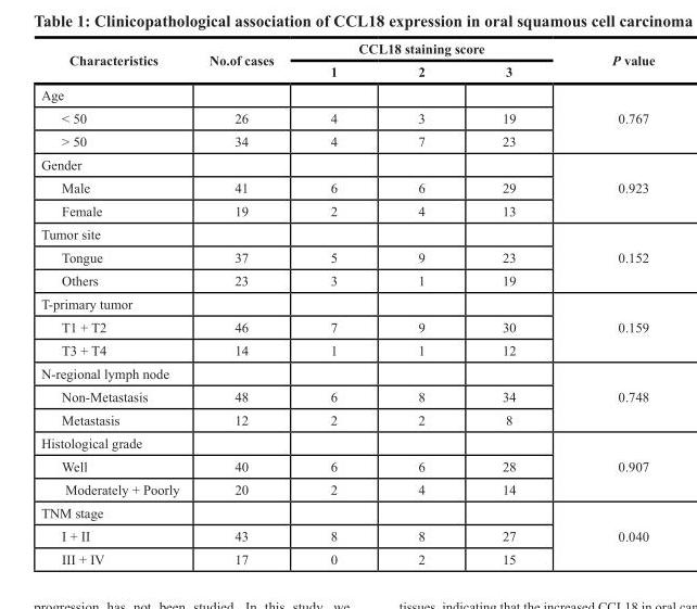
<table><thead><tr><td rowspan="2">Characteristics</td><td rowspan="2">No.of cases</td><td colspan="3">CCL18 staining score</td><td rowspan="2">P value</td></tr><tr><td>1</td><td>2</td><td>3</td></tr></thead><tbody><tr><td colspan="5">Age</td><td rowspan="3">0.767</td></tr><tr><td>&lt; 50</td><td>26</td><td>4</td><td>3</td><td>19</td></tr><tr><td>&gt; 50</td><td>34</td><td>4</td><td>7</td><td>23</td></tr><tr><td colspan="5">Gender</td><td rowspan="3">0.923</td></tr><tr><td>Male</td><td>41</td><td>6</td><td>6</td><td>29</td></tr><tr><td>Female</td><td>19</td><td>2</td><td>4</td><td>13</td></tr><tr><td colspan="5">Tumor site</td><td rowspan="3">0.152</td></tr><tr><td>Tongue</td><td>37</td><td>5</td><td>9</td><td>23</td></tr><tr><td>Others</td><td>23</td><td>3</td><td>1</td><td>19</td></tr><tr><td colspan="5">T-primary tumor</td><td rowspan="3">0.159</td></tr><tr><td>T1 + T2</td><td>46</td><td>7</td><td>9</td><td>30</td></tr><tr><td>T3 + T4</td><td>14</td><td>1</td><td>1</td><td>12</td></tr><tr><td colspan="5">N-regional lymph node</td><td rowspan="3">0.748</td></tr><tr><td>Non-Metastasis</td><td>48</td><td>6</td><td>8</td><td>34</td></tr><tr><td>Metastasis</td><td>12</td><td>2</td><td>2</td><td>8</td></tr><tr><td colspan="5">Histological grade</td><td rowspan="3">0.907</td></tr><tr><td>Well</td><td>40</td><td>6</td><td>6</td><td>28</td></tr><tr><td>Moderately + Poorly</td><td>20</td><td>2</td><td>4</td><td>14</td></tr><tr><td colspan="5">TNM stage</td><td rowspan="3">0.040</td></tr><tr><td>I + II</td><td>43</td><td>8</td><td>8</td><td>27</td></tr><tr><td>III + IV</td><td>17</td><td>0</td><td>2</td><td>15</td></tr></tbody></table>